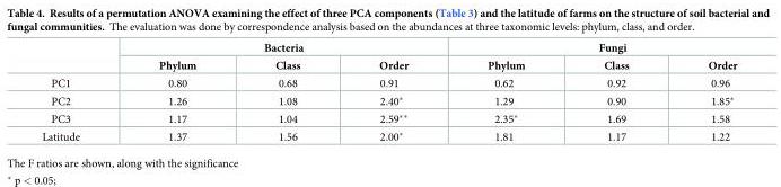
<table><thead><tr><td rowspan="2"></td><td colspan="3">Bacteria</td><td colspan="3">Fungi</td></tr><tr><td>Phylum</td><td>Class</td><td>Order</td><td>Phylum</td><td>Class</td><td>Order</td></tr></thead><tbody><tr><td>PC1</td><td>0.80</td><td>0.68</td><td>0.91</td><td>0.62</td><td>0.92</td><td>0.96</td></tr><tr><td>PC2</td><td>1.26</td><td>1.08</td><td>2.40*</td><td>1.29</td><td>0.90</td><td>1.85*</td></tr><tr><td>PC3</td><td>1.17</td><td>1.04</td><td>2.59**</td><td>2.35*</td><td>1.69</td><td>1.58</td></tr><tr><td>Latitude</td><td>1.37</td><td>1.56</td><td>2.00*</td><td>1.81</td><td>1.17</td><td>1.22</td></tr></tbody></table>